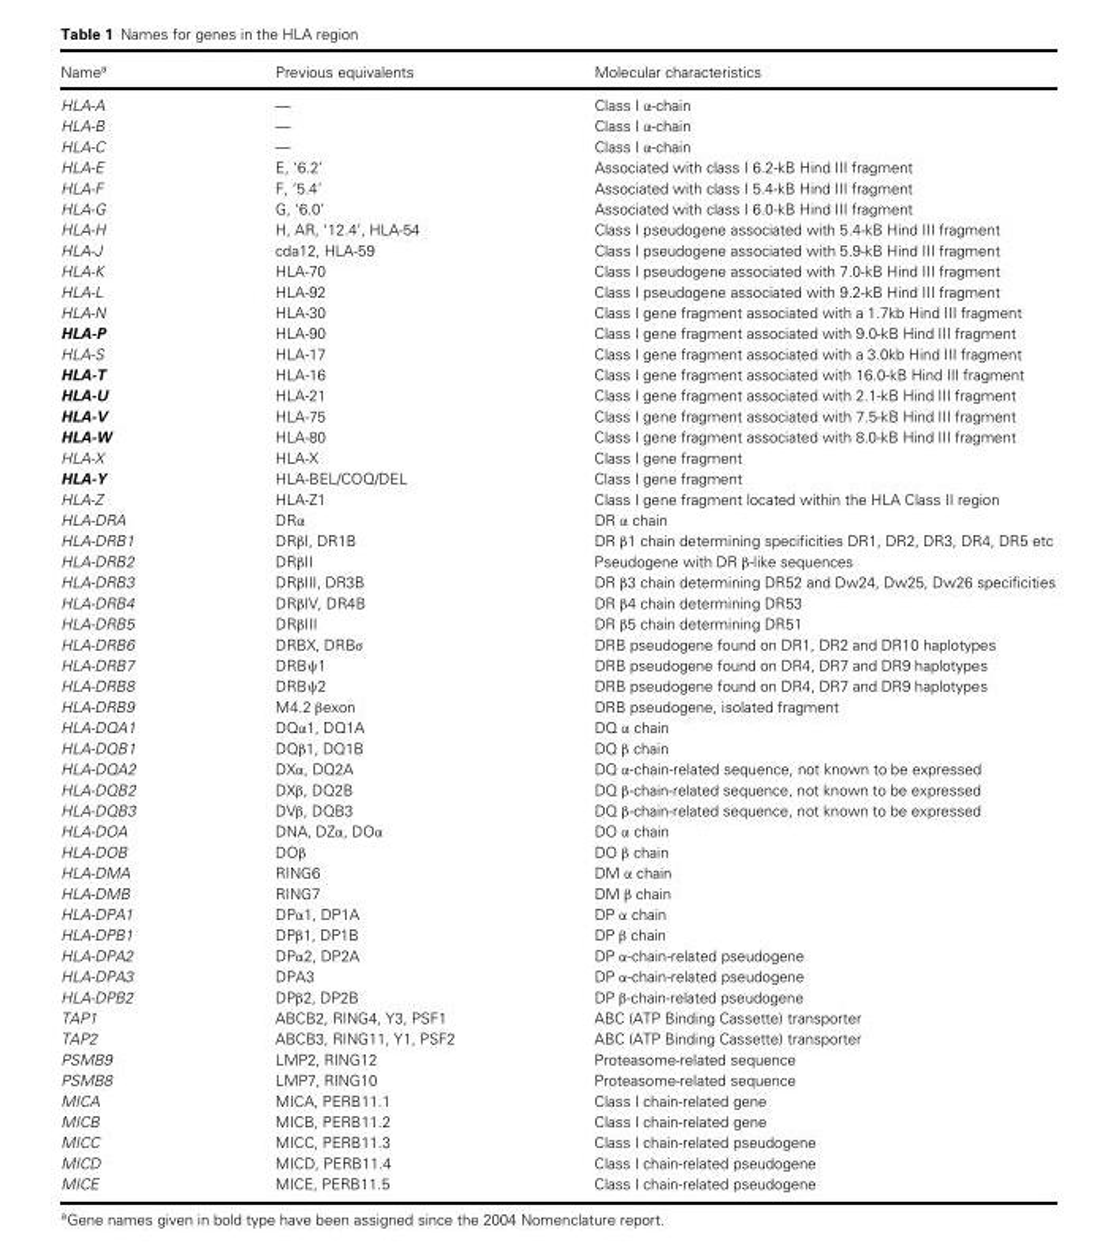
<table><thead><tr><td>Name<sup>a</sup></td><td>Previous equivalents</td><td>Molecular characteristics</td></tr></thead><tbody><tr><td>HLA-A</td><td>—</td><td>Class I α-chain</td></tr><tr><td>HLA-B</td><td>—</td><td>Class I α-chain</td></tr><tr><td>HLA-C</td><td>—</td><td>Class I α-chain</td></tr><tr><td>HLA-E</td><td>E, ‘6.2’</td><td>Associated with class I 6.2-kB Hind III fragment</td></tr><tr><td>HLA-F</td><td>F, ‘5.4’</td><td>Associated with class I 5.4-kB Hind III fragment</td></tr><tr><td>HLA-G</td><td>G, ‘6.0’</td><td>Associated with class I 6.0-kB Hind III fragment</td></tr><tr><td>HLA-H</td><td>H, AR, ‘12.4’, HLA-54</td><td>Class I pseudogene associated with 5.4-kB Hind III fragment</td></tr><tr><td>HLA-J</td><td>cda12, HLA-59</td><td>Class I pseudogene associated with 5.9-kB Hind III fragment</td></tr><tr><td>HLA-K</td><td>HLA-70</td><td>Class I pseudogene associated with 7.0-kB Hind III fragment</td></tr><tr><td>HLA-L</td><td>HLA-92</td><td>Class I pseudogene associated with 9.2-kB Hind III fragment</td></tr><tr><td>HLA-N</td><td>HLA-30</td><td>Class I gene fragment associated with a 1.7kb Hind III fragment</td></tr><tr><td>HLA-P</td><td>HLA-90</td><td>Class I gene fragment associated with 9.0-kB Hind III fragment</td></tr><tr><td>HLA-S</td><td>HLA-17</td><td>Class I gene fragment associated with a 3.0kb Hind III fragment</td></tr><tr><td>HLA-T</td><td>HLA-16</td><td>Class I gene fragment associated with 16.0-kB Hind III fragment</td></tr><tr><td>HLA-U</td><td>HLA-21</td><td>Class I gene fragment associated with 2.1-kB Hind III fragment</td></tr><tr><td>HLA-V</td><td>HLA-75</td><td>Class I gene fragment associated with 7.5-kB Hind III fragment</td></tr><tr><td>HLA-W</td><td>HLA-80</td><td>Class I gene fragment associated with 8.0-kB Hind III fragment</td></tr><tr><td>HLA-X</td><td>HLA-X</td><td>Class I gene fragment</td></tr><tr><td>HLA-Y</td><td>HLA-BEL/COQ/DEL</td><td>Class I gene fragment</td></tr><tr><td>HLA-Z</td><td>HLA-Z1</td><td>Class I gene fragment located within the HLA Class II region</td></tr><tr><td>HLA-DRA</td><td>DRα</td><td>DR α chain</td></tr><tr><td>HLA-DRB1</td><td>DRβI, DR1B</td><td>DR β1 chain determining specificities DR1, DR2, DR3, DR4, DR5 etc</td></tr><tr><td>HLA-DRB2</td><td>DRβII</td><td>Pseudogene with DR β-like sequences</td></tr><tr><td>HLA-DRB3</td><td>DRβIII, DR3B</td><td>DR β3 chain determining DR52 and Dw24, Dw25, Dw26 specificities</td></tr><tr><td>HLA-DRB4</td><td>DRβIV, DR4B</td><td>DR β4 chain determining DR53</td></tr><tr><td>HLA-DRB5</td><td>DRβIII</td><td>DR β5 chain determining DR51</td></tr><tr><td>HLA-DRB6</td><td>DRBX, DRBσ</td><td>DRB pseudogene found on DR1, DR2 and DR10 haplotypes</td></tr><tr><td>HLA-DRB7</td><td>DRBψ1</td><td>DRB pseudogene found on DR4, DR7 and DR9 haplotypes</td></tr><tr><td>HLA-DRB8</td><td>DRBψ2</td><td>DRB pseudogene found on DR4, DR7 and DR9 haplotypes</td></tr><tr><td>HLA-DRB9</td><td>M4.2 βexon</td><td>DRB pseudogene, isolated fragment</td></tr><tr><td>HLA-DQA1</td><td>DQα1, DQ1A</td><td>DQ α chain</td></tr><tr><td>HLA-DQB1</td><td>DQβ1, DQ1B</td><td>DQ β chain</td></tr><tr><td>HLA-DQA2</td><td>DXα, DQ2A</td><td>DQ α-chain-related sequence, not known to be expressed</td></tr><tr><td>HLA-DQB2</td><td>DXβ, DQ2B</td><td>DQ β-chain-related sequence, not known to be expressed</td></tr><tr><td>HLA-DQB3</td><td>DVβ, DQB3</td><td>DQ β-chain-related sequence, not known to be expressed</td></tr><tr><td>HLA-DOA</td><td>DNA, DZα, DOα</td><td>DO α chain</td></tr><tr><td>HLA-DOB</td><td>DOβ</td><td>DO β chain</td></tr><tr><td>HLA-DMA</td><td>RING6</td><td>DM α chain</td></tr><tr><td>HLA-DMB</td><td>RING7</td><td>DM β chain</td></tr><tr><td>HLA-DPA1</td><td>DPα1, DP1A</td><td>DP α chain</td></tr><tr><td>HLA-DPB1</td><td>DPβ1, DP1B</td><td>DP β chain</td></tr><tr><td>HLA-DPA2</td><td>DPα2, DP2A</td><td>DP α-chain-related pseudogene</td></tr><tr><td>HLA-DPA3</td><td>DPA3</td><td>DP α-chain-related pseudogene</td></tr><tr><td>HLA-DPB2</td><td>DPβ2, DP2B</td><td>DP β-chain-related pseudogene</td></tr><tr><td>TAP1</td><td>ABCB2, RING4, Y3, PSF1</td><td>ABC (ATP Binding Cassette) transporter</td></tr><tr><td>TAP2</td><td>ABCB3, RING11, Y1, PSF2</td><td>ABC (ATP Binding Cassette) transporter</td></tr><tr><td>PSMB9</td><td>LMP2, RING12</td><td>Proteasome-related sequence</td></tr><tr><td>PSMB8</td><td>LMP7, RING10</td><td>Proteasome-related sequence</td></tr><tr><td>MICA</td><td>MICA, PERB11.1</td><td>Class I chain-related gene</td></tr><tr><td>MICB</td><td>MICB, PERB11.2</td><td>Class I chain-related gene</td></tr><tr><td>MICC</td><td>MICC, PERB11.3</td><td>Class I chain-related pseudogene</td></tr><tr><td>MICD</td><td>MICD, PERB11.4</td><td>Class I chain-related pseudogene</td></tr><tr><td>MICE</td><td>MICE, PERB11.5</td><td>Class I chain-related pseudogene</td></tr></tbody></table>